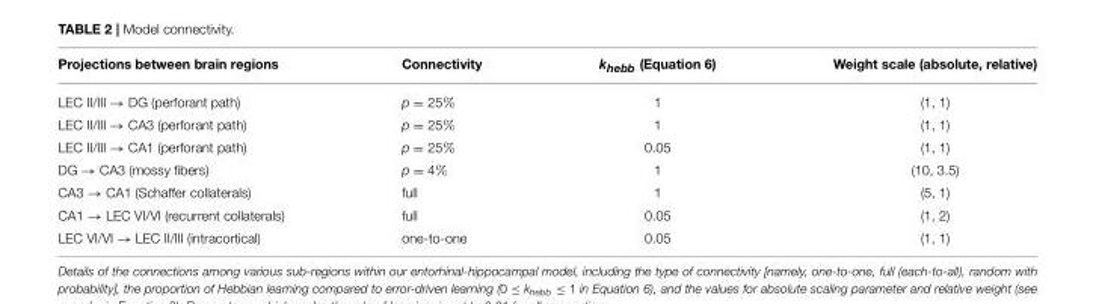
<table><thead><tr><td>Projections between brain regions</td><td>Connectivity</td><td>k<sub>hebb</sub> (Equation 6)</td><td>Weight scale (absolute, relative)</td></tr></thead><tbody><tr><td>LEC II/III → DG (perforant path)</td><td>p = 25%</td><td>1</td><td>(1, 1)</td></tr><tr><td>LEC II/III → CA3 (perforant path)</td><td>p = 25%</td><td>1</td><td>(1, 1)</td></tr><tr><td>LEC II/III → CA1 (perforant path)</td><td>p = 25%</td><td>0.05</td><td>(1, 1)</td></tr><tr><td>DG → CA3 (mossy fibers)</td><td>p = 4%</td><td>1</td><td>(10, 3.5)</td></tr><tr><td>CA3 → CA1 (Schaffer collaterals)</td><td>full</td><td>1</td><td>(5, 1)</td></tr><tr><td>CA1 → LEC VI/VI (recurrent collaterals)</td><td>full</td><td>0.05</td><td>(1, 2)</td></tr><tr><td>LEC VI/VI → LEC II/III (intracortical)</td><td>one-to-one</td><td>0.05</td><td>(1, 1)</td></tr></tbody></table>